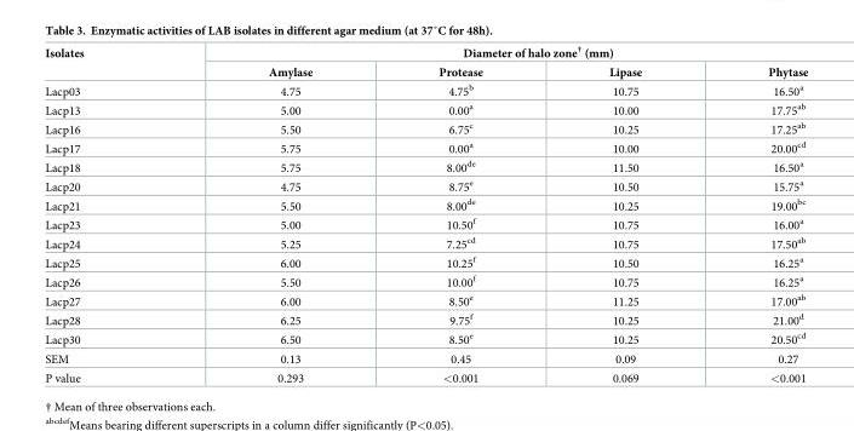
<table><thead><tr><td rowspan="2">Isolates</td><td colspan="4">Diameter of halo zone<sup>†</sup> (mm)</td></tr><tr><td>Amylase</td><td>Protease</td><td>Lipase</td><td>Phytase</td></tr></thead><tbody><tr><td>Lacp03</td><td>4.75</td><td>4.75<sup>b</sup></td><td>10.75</td><td>16.50<sup>a</sup></td></tr><tr><td>Lacp13</td><td>5.00</td><td>0.00<sup>a</sup></td><td>10.00</td><td>17.75<sup>ab</sup></td></tr><tr><td>Lacp16</td><td>5.50</td><td>6.75<sup>c</sup></td><td>10.25</td><td>17.25<sup>ab</sup></td></tr><tr><td>Lacp17</td><td>5.75</td><td>0.00<sup>a</sup></td><td>10.00</td><td>20.00<sup>cd</sup></td></tr><tr><td>Lacp18</td><td>5.75</td><td>8.00<sup>de</sup></td><td>11.50</td><td>16.50<sup>a</sup></td></tr><tr><td>Lacp20</td><td>4.75</td><td>8.75<sup>e</sup></td><td>10.50</td><td>15.75<sup>a</sup></td></tr><tr><td>Lacp21</td><td>5.50</td><td>8.00<sup>de</sup></td><td>10.25</td><td>19.00<sup>bc</sup></td></tr><tr><td>Lacp23</td><td>5.00</td><td>10.50<sup>f</sup></td><td>10.75</td><td>16.00<sup>a</sup></td></tr><tr><td>Lacp24</td><td>5.25</td><td>7.25<sup>cd</sup></td><td>10.75</td><td>17.50<sup>ab</sup></td></tr><tr><td>Lacp25</td><td>6.00</td><td>10.25<sup>f</sup></td><td>10.50</td><td>16.25<sup>a</sup></td></tr><tr><td>Lacp26</td><td>5.50</td><td>10.00<sup>f</sup></td><td>10.75</td><td>16.25<sup>a</sup></td></tr><tr><td>Lacp27</td><td>6.00</td><td>8.50<sup>e</sup></td><td>11.25</td><td>17.00<sup>ab</sup></td></tr><tr><td>Lacp28</td><td>6.25</td><td>9.75<sup>f</sup></td><td>10.25</td><td>21.00<sup>d</sup></td></tr><tr><td>Lacp30</td><td>6.50</td><td>8.50<sup>e</sup></td><td>10.25</td><td>20.50<sup>cd</sup></td></tr><tr><td>SEM</td><td>0.13</td><td>0.45</td><td>0.09</td><td>0.27</td></tr><tr><td>P value</td><td>0.293</td><td>&lt;0.001</td><td>0.069</td><td>&lt;0.001</td></tr></tbody></table>